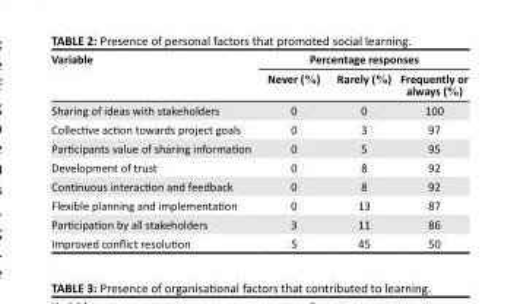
<table><thead><tr><td rowspan="2">Variable</td><td colspan="3">Percentage responses</td></tr><tr><td>Never (%)</td><td>Rarely (%)</td><td>Frequently or always (%)</td></tr></thead><tbody><tr><td>Sharing of ideas with stakeholders</td><td>0</td><td>0</td><td>100</td></tr><tr><td>Collective action towards project goals</td><td>0</td><td>3</td><td>97</td></tr><tr><td>Participants value of sharing information</td><td>0</td><td>5</td><td>95</td></tr><tr><td>Development of trust</td><td>0</td><td>8</td><td>92</td></tr><tr><td>Continuous interaction and feedback</td><td>0</td><td>8</td><td>92</td></tr><tr><td>Flexible planning and implementation</td><td>0</td><td>13</td><td>87</td></tr><tr><td>Participation by all stakeholders</td><td>3</td><td>11</td><td>86</td></tr><tr><td>Improved conflict resolution</td><td>5</td><td>45</td><td>50</td></tr></tbody></table>